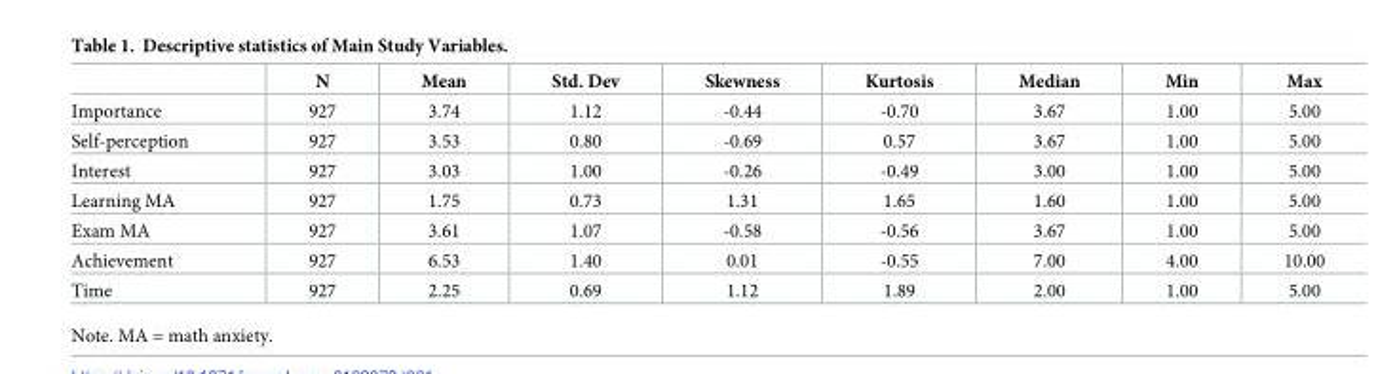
<table><thead><tr><td></td><td>N</td><td>Mean</td><td>Std. Dev</td><td>Skewness</td><td>Kurtosis</td><td>Median</td><td>Min</td><td>Max</td></tr></thead><tbody><tr><td>Importance</td><td>927</td><td>3.74</td><td>1.12</td><td>-0.44</td><td>-0.70</td><td>3.67</td><td>1.00</td><td>5.00</td></tr><tr><td>Self-perception</td><td>927</td><td>3.53</td><td>0.80</td><td>-0.69</td><td>0.57</td><td>3.67</td><td>1.00</td><td>5.00</td></tr><tr><td>Interest</td><td>927</td><td>3.03</td><td>1.00</td><td>-0.26</td><td>-0.49</td><td>3.00</td><td>1.00</td><td>5.00</td></tr><tr><td>Learning MA</td><td>927</td><td>1.75</td><td>0.73</td><td>1.31</td><td>1.65</td><td>1.60</td><td>1.00</td><td>5.00</td></tr><tr><td>Exam MA</td><td>927</td><td>3.61</td><td>1.07</td><td>-0.58</td><td>-0.56</td><td>3.67</td><td>1.00</td><td>5.00</td></tr><tr><td>Achievement</td><td>927</td><td>6.53</td><td>1.40</td><td>0.01</td><td>-0.55</td><td>7.00</td><td>4.00</td><td>10.00</td></tr><tr><td>Time</td><td>927</td><td>2.25</td><td>0.69</td><td>1.12</td><td>1.89</td><td>2.00</td><td>1.00</td><td>5.00</td></tr></tbody></table>